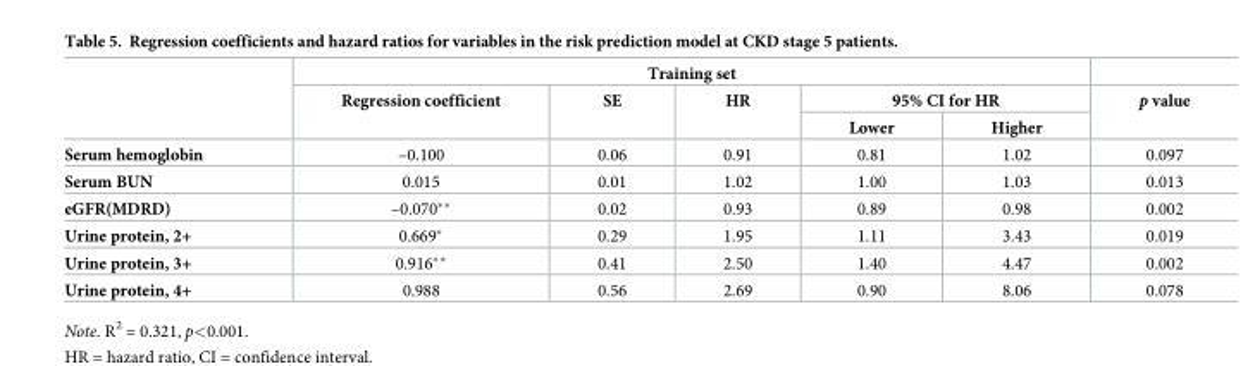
<table><thead><tr><td rowspan="3"></td><td colspan="5">Training set</td><td rowspan="3">p value</td></tr><tr><td rowspan="2">Regression coefficient</td><td rowspan="2">SE</td><td rowspan="2">HR</td><td colspan="2">95% CI for HR</td></tr><tr><td>Lower</td><td>Higher</td></tr></thead><tbody><tr><td>Serum hemoglobin</td><td>–0.100</td><td>0.06</td><td>0.91</td><td>0.81</td><td>1.02</td><td>0.097</td></tr><tr><td>Serum BUN</td><td>0.015</td><td>0.01</td><td>1.02</td><td>1.00</td><td>1.03</td><td>0.013</td></tr><tr><td>eGFR(MDRD)</td><td>–0.070**</td><td>0.02</td><td>0.93</td><td>0.89</td><td>0.98</td><td>0.002</td></tr><tr><td>Urine protein, 2+</td><td>0.669*</td><td>0.29</td><td>1.95</td><td>1.11</td><td>3.43</td><td>0.019</td></tr><tr><td>Urine protein, 3+</td><td>0.916**</td><td>0.41</td><td>2.50</td><td>1.40</td><td>4.47</td><td>0.002</td></tr><tr><td>Urine protein, 4+</td><td>0.988</td><td>0.56</td><td>2.69</td><td>0.90</td><td>8.06</td><td>0.078</td></tr></tbody></table>